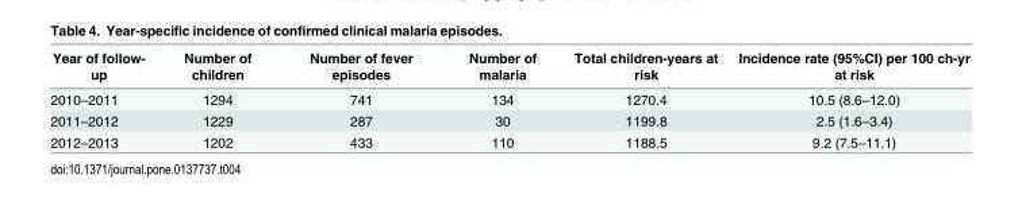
<table><thead><tr><td>Year of follow- up</td><td>Number of children</td><td>Number of fever episodes</td><td>Number of malaria</td><td>Total children-years at risk</td><td>Incidence rate (95%CI) per 100 ch-yr at risk</td></tr></thead><tbody><tr><td>2010–2011</td><td>1294</td><td>741</td><td>134</td><td>1270.4</td><td>10.5 (8.6–12.0)</td></tr><tr><td>2011–2012</td><td>1229</td><td>287</td><td>30</td><td>1199.8</td><td>2.5 (1.6–3.4)</td></tr><tr><td>2012–2013</td><td>1202</td><td>433</td><td>110</td><td>1188.5</td><td>9.2 (7.5–11.1)</td></tr></tbody></table>